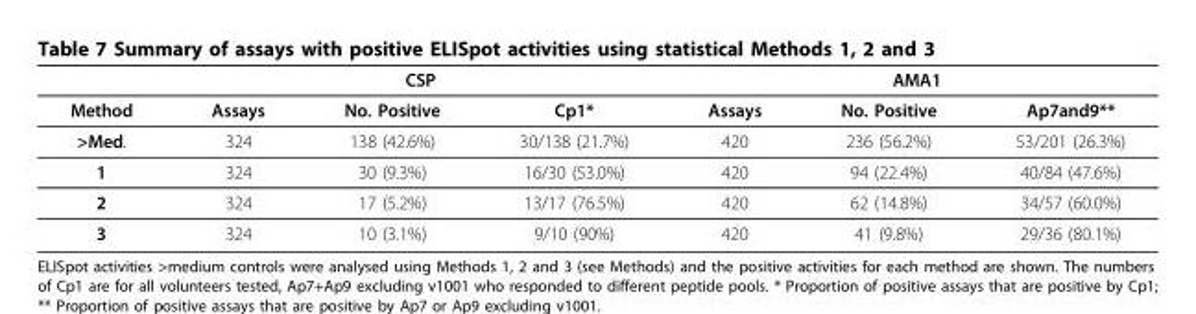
<table><thead><tr><td rowspan="2">Method</td><td colspan="3">CSP</td><td colspan="3">AMA1</td></tr><tr><td>Assays</td><td>No. Positive</td><td>Cp1*</td><td>Assays</td><td>No. Positive</td><td>Ap7and9**</td></tr></thead><tbody><tr><td>&gt;Med.</td><td>324</td><td>138 (42.6%)</td><td>30/138 (21.7%)</td><td>420</td><td>236 (56.2%)</td><td>53/201 (26.3%)</td></tr><tr><td>1</td><td>324</td><td>30 (9.3%)</td><td>16/30 (53.0%)</td><td>420</td><td>94 (22.4%)</td><td>40/84 (47.6%)</td></tr><tr><td>2</td><td>324</td><td>17 (5.2%)</td><td>13/17 (76.5%)</td><td>420</td><td>62 (14.8%)</td><td>34/57 (60.0%)</td></tr><tr><td>3</td><td>324</td><td>10 (3.1%)</td><td>9/10 (90%)</td><td>420</td><td>41 (9.8%)</td><td>29/36 (80.1%)</td></tr></tbody></table>